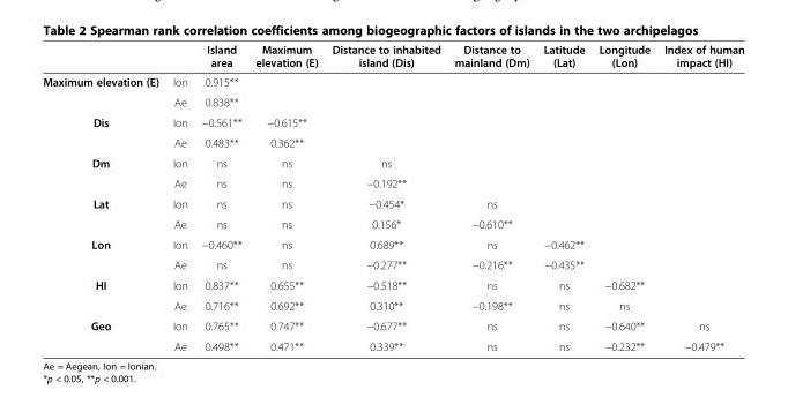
<table><thead><tr><td></td><td></td><td>Island area</td><td>Maximum elevation (E)</td><td>Distance to inhabited island (Dis)</td><td>Distance to mainland (Dm)</td><td>Latitude (Lat)</td><td>Longitude (Lon)</td><td>Index of human impact (HI)</td></tr></thead><tbody><tr><td rowspan="2">Maximum elevation (E)</td><td>Ion</td><td>0.915**</td><td></td><td></td><td></td><td></td><td></td><td></td></tr><tr><td>Ae</td><td>0.838**</td><td></td><td></td><td></td><td></td><td></td><td></td></tr><tr><td rowspan="2">Dis</td><td>Ion</td><td>−0.561**</td><td>−0.615**</td><td></td><td></td><td></td><td></td><td></td></tr><tr><td>Ae</td><td>0.483**</td><td>0.362**</td><td></td><td></td><td></td><td></td><td></td></tr><tr><td rowspan="2">Dm</td><td>Ion</td><td>ns</td><td>ns</td><td>ns</td><td></td><td></td><td></td><td></td></tr><tr><td>Ae</td><td>ns</td><td>ns</td><td>−0.192**</td><td></td><td></td><td></td><td></td></tr><tr><td rowspan="2">Lat</td><td>Ion</td><td>ns</td><td>ns</td><td>−0.454*</td><td>ns</td><td></td><td></td><td></td></tr><tr><td>Ae</td><td>ns</td><td>ns</td><td>0.156*</td><td>−0.610**</td><td></td><td></td><td></td></tr><tr><td rowspan="2">Lon</td><td>Ion</td><td>−0.460**</td><td>ns</td><td>0.689**</td><td>ns</td><td>−0.462**</td><td></td><td></td></tr><tr><td>Ae</td><td>ns</td><td>ns</td><td>−0.277**</td><td>−0.216**</td><td>−0.435**</td><td></td><td></td></tr><tr><td rowspan="2">HI</td><td>Ion</td><td>0.837**</td><td>0.655**</td><td>−0.518**</td><td>ns</td><td>ns</td><td>−0.682**</td><td></td></tr><tr><td>Ae</td><td>0.716**</td><td>0.692**</td><td>0.310**</td><td>−0.198**</td><td>ns</td><td>ns</td><td></td></tr><tr><td rowspan="2">Geo</td><td>Ion</td><td>0.765**</td><td>0.747**</td><td>−0.677**</td><td>ns</td><td>ns</td><td>−0.640**</td><td>ns</td></tr><tr><td>Ae</td><td>0.498**</td><td>0.471**</td><td>0.339**</td><td>ns</td><td>ns</td><td>−0.232**</td><td>−0.479**</td></tr></tbody></table>